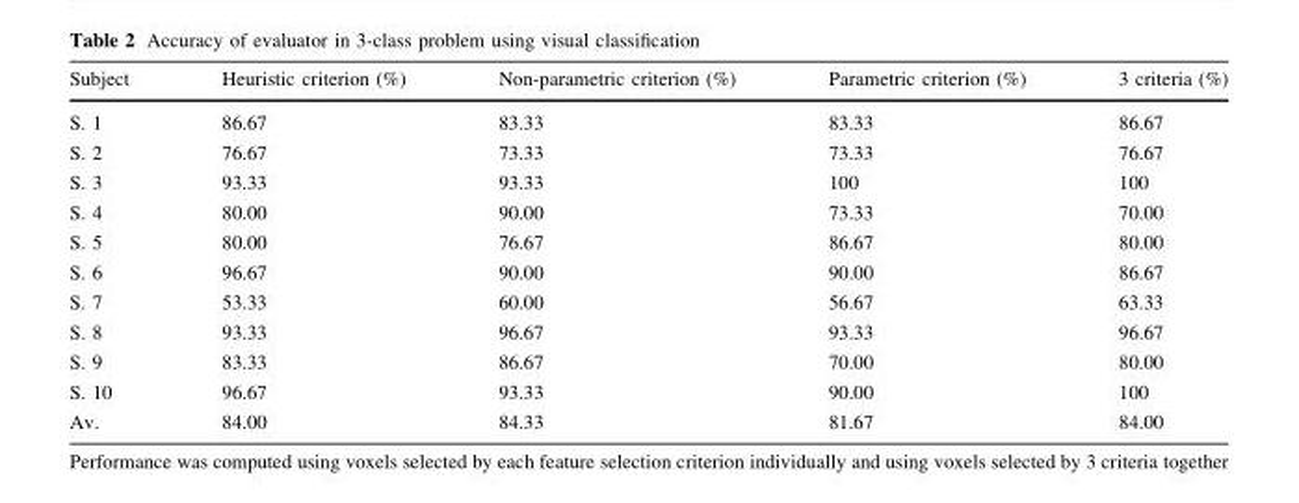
<table><thead><tr><td>Subject</td><td>Heuristic criterion (%)</td><td>Non-parametric criterion (%)</td><td>Parametric criterion (%)</td><td>3 criteria (%)</td></tr></thead><tbody><tr><td>S. 1</td><td>86.67</td><td>83.33</td><td>83.33</td><td>86.67</td></tr><tr><td>S. 2</td><td>76.67</td><td>73.33</td><td>73.33</td><td>76.67</td></tr><tr><td>S. 3</td><td>93.33</td><td>93.33</td><td>100</td><td>100</td></tr><tr><td>S. 4</td><td>80.00</td><td>90.00</td><td>73.33</td><td>70.00</td></tr><tr><td>S. 5</td><td>80.00</td><td>76.67</td><td>86.67</td><td>80.00</td></tr><tr><td>S. 6</td><td>96.67</td><td>90.00</td><td>90.00</td><td>86.67</td></tr><tr><td>S. 7</td><td>53.33</td><td>60.00</td><td>56.67</td><td>63.33</td></tr><tr><td>S. 8</td><td>93.33</td><td>96.67</td><td>93.33</td><td>96.67</td></tr><tr><td>S. 9</td><td>83.33</td><td>86.67</td><td>70.00</td><td>80.00</td></tr><tr><td>S. 10</td><td>96.67</td><td>93.33</td><td>90.00</td><td>100</td></tr><tr><td>Av.</td><td>84.00</td><td>84.33</td><td>81.67</td><td>84.00</td></tr></tbody></table>